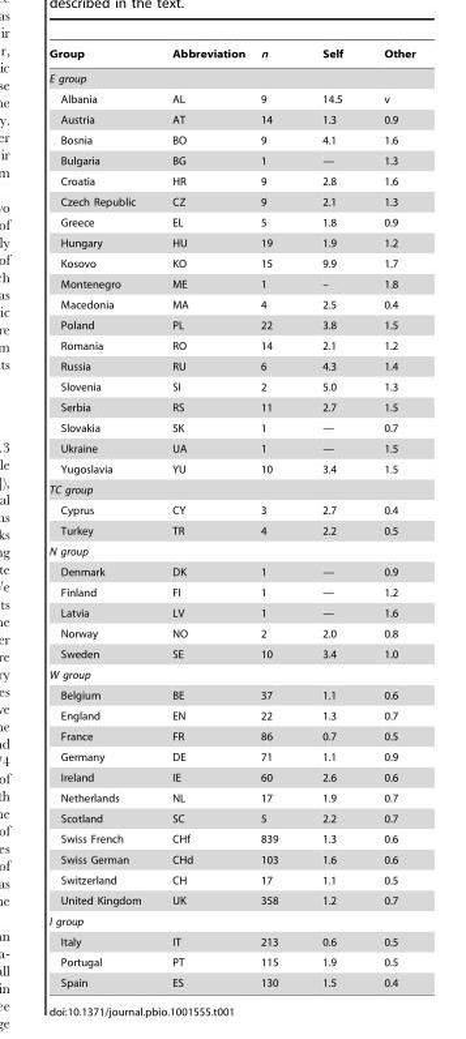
<table><thead><tr><td>Group</td><td>Abbreviation</td><td>n</td><td>Self</td><td>Other</td></tr></thead><tbody><tr><td colspan="5">E group</td></tr><tr><td>Albania</td><td>AL</td><td>9</td><td>14.5</td><td>v</td></tr><tr><td>Austria</td><td>AT</td><td>14</td><td>1.3</td><td>0.9</td></tr><tr><td>Bosnia</td><td>BO</td><td>9</td><td>4.1</td><td>1.6</td></tr><tr><td>Bulgaria</td><td>BG</td><td>1</td><td>—</td><td>1.3</td></tr><tr><td>Croatia</td><td>HR</td><td>9</td><td>2.8</td><td>1.6</td></tr><tr><td>Czech Republic</td><td>CZ</td><td>9</td><td>2.1</td><td>1.3</td></tr><tr><td>Greece</td><td>EL</td><td>5</td><td>1.8</td><td>0.9</td></tr><tr><td>Hungary</td><td>HU</td><td>19</td><td>1.9</td><td>1.2</td></tr><tr><td>Kosovo</td><td>KO</td><td>15</td><td>9.9</td><td>1.7</td></tr><tr><td>Montenegro</td><td>ME</td><td>1</td><td>–</td><td>1.8</td></tr><tr><td>Macedonia</td><td>MA</td><td>4</td><td>2.5</td><td>0.4</td></tr><tr><td>Poland</td><td>PL</td><td>22</td><td>3.8</td><td>1.5</td></tr><tr><td>Romania</td><td>RO</td><td>14</td><td>2.1</td><td>1.2</td></tr><tr><td>Russia</td><td>RU</td><td>6</td><td>4.3</td><td>1.4</td></tr><tr><td>Slovenia</td><td>SI</td><td>2</td><td>5.0</td><td>1.3</td></tr><tr><td>Serbia</td><td>RS</td><td>11</td><td>2.7</td><td>1.5</td></tr><tr><td>Slovakia</td><td>SK</td><td>1</td><td>—</td><td>0.7</td></tr><tr><td>Ukraine</td><td>UA</td><td>1</td><td>—</td><td>1.5</td></tr><tr><td>Yugoslavia</td><td>YU</td><td>10</td><td>3.4</td><td>1.5</td></tr><tr><td colspan="5">TC group</td></tr><tr><td>Cyprus</td><td>CY</td><td>3</td><td>2.7</td><td>0.4</td></tr><tr><td>Turkey</td><td>TR</td><td>4</td><td>2.2</td><td>0.5</td></tr><tr><td colspan="5">N group</td></tr><tr><td>Denmark</td><td>DK</td><td>1</td><td>—</td><td>0.9</td></tr><tr><td>Finland</td><td>FI</td><td>1</td><td>—</td><td>1.2</td></tr><tr><td>Latvia</td><td>LV</td><td>1</td><td>—</td><td>1.6</td></tr><tr><td>Norway</td><td>NO</td><td>2</td><td>2.0</td><td>0.8</td></tr><tr><td>Sweden</td><td>SE</td><td>10</td><td>3.4</td><td>1.0</td></tr><tr><td colspan="5">W group</td></tr><tr><td>Belgium</td><td>BE</td><td>37</td><td>1.1</td><td>0.6</td></tr><tr><td>England</td><td>EN</td><td>22</td><td>1.3</td><td>0.7</td></tr><tr><td>France</td><td>FR</td><td>86</td><td>0.7</td><td>0.5</td></tr><tr><td>Germany</td><td>DE</td><td>71</td><td>1.1</td><td>0.9</td></tr><tr><td>Ireland</td><td>IE</td><td>60</td><td>2.6</td><td>0.6</td></tr><tr><td>Netherlands</td><td>NL</td><td>17</td><td>1.9</td><td>0.7</td></tr><tr><td>Scotland</td><td>SC</td><td>5</td><td>2.2</td><td>0.7</td></tr><tr><td>Swiss French</td><td>CHf</td><td>839</td><td>1.3</td><td>0.6</td></tr><tr><td>Swiss German</td><td>CHd</td><td>103</td><td>1.6</td><td>0.6</td></tr><tr><td>Switzerland</td><td>CH</td><td>17</td><td>1.1</td><td>0.5</td></tr><tr><td>United Kingdom</td><td>UK</td><td>358</td><td>1.2</td><td>0.7</td></tr><tr><td colspan="5">I group</td></tr><tr><td>Italy</td><td>IT</td><td>213</td><td>0.6</td><td>0.5</td></tr><tr><td>Portugal</td><td>PT</td><td>115</td><td>1.9</td><td>0.5</td></tr><tr><td>Spain</td><td>ES</td><td>130</td><td>1.5</td><td>0.4</td></tr></tbody></table>